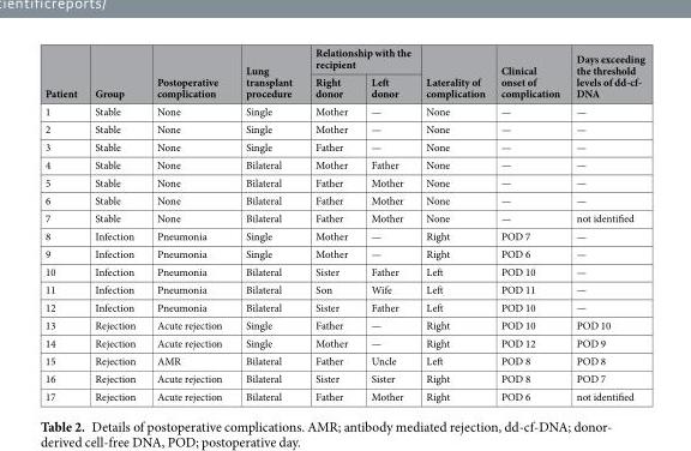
<table><thead><tr><td rowspan="2">Patient</td><td rowspan="2">Group</td><td rowspan="2">Postoperative complication</td><td rowspan="2">Lung transplant procedure</td><td colspan="2">Relationship with the recipient</td><td rowspan="2">Laterality of complication</td><td rowspan="2">Clinical onset of complication</td><td rowspan="2">Days exceeding the threshold levels of dd-cf- DNA</td></tr><tr><td>Right donor</td><td>Left donor</td></tr></thead><tbody><tr><td>1</td><td>Stable</td><td>None</td><td>Single</td><td>Mother</td><td>—</td><td>None</td><td>—</td><td>—</td></tr><tr><td>2</td><td>Stable</td><td>None</td><td>Single</td><td>Mother</td><td>—</td><td>None</td><td>—</td><td>—</td></tr><tr><td>3</td><td>Stable</td><td>None</td><td>Single</td><td>Father</td><td>—</td><td>None</td><td>—</td><td>—</td></tr><tr><td>4</td><td>Stable</td><td>None</td><td>Bilateral</td><td>Mother</td><td>Father</td><td>None</td><td>—</td><td>—</td></tr><tr><td>5</td><td>Stable</td><td>None</td><td>Bilateral</td><td>Father</td><td>Mother</td><td>None</td><td>—</td><td>—</td></tr><tr><td>6</td><td>Stable</td><td>None</td><td>Bilateral</td><td>Father</td><td>Mother</td><td>None</td><td>—</td><td>—</td></tr><tr><td>7</td><td>Stable</td><td>None</td><td>Bilateral</td><td>Father</td><td>Mother</td><td>None</td><td>—</td><td>not identified</td></tr><tr><td>8</td><td>Infection</td><td>Pneumonia</td><td>Single</td><td>Mother</td><td>—</td><td>Right</td><td>POD 7</td><td>—</td></tr><tr><td>9</td><td>Infection</td><td>Pneumonia</td><td>Single</td><td>Mother</td><td>—</td><td>Right</td><td>POD 6</td><td>—</td></tr><tr><td>10</td><td>Infection</td><td>Pneumonia</td><td>Bilateral</td><td>Sister</td><td>Father</td><td>Left</td><td>POD 10</td><td>—</td></tr><tr><td>11</td><td>Infection</td><td>Pneumonia</td><td>Bilateral</td><td>Son</td><td>Wife</td><td>Left</td><td>POD 11</td><td>—</td></tr><tr><td>12</td><td>Infection</td><td>Pneumonia</td><td>Bilateral</td><td>Sister</td><td>Father</td><td>Left</td><td>POD 10</td><td>—</td></tr><tr><td>13</td><td>Rejection</td><td>Acute rejection</td><td>Single</td><td>Father</td><td>—</td><td>Right</td><td>POD 10</td><td>POD 10</td></tr><tr><td>14</td><td>Rejection</td><td>Acute rejection</td><td>Single</td><td>Mother</td><td>—</td><td>Right</td><td>POD 12</td><td>POD 9</td></tr><tr><td>15</td><td>Rejection</td><td>AMR</td><td>Bilateral</td><td>Father</td><td>Uncle</td><td>Left</td><td>POD 8</td><td>POD 8</td></tr><tr><td>16</td><td>Rejection</td><td>Acute rejection</td><td>Bilateral</td><td>Sister</td><td>Sister</td><td>Right</td><td>POD 8</td><td>POD 7</td></tr><tr><td>17</td><td>Rejection</td><td>Acute rejection</td><td>Bilateral</td><td>Father</td><td>Mother</td><td>Right</td><td>POD 6</td><td>not identified</td></tr></tbody></table>